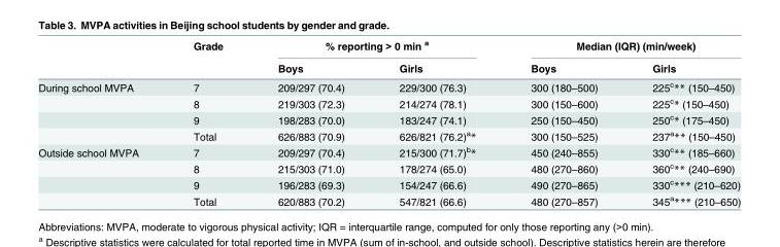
<table><thead><tr><td rowspan="2"></td><td rowspan="2">Grade</td><td colspan="2">% reporting &gt; 0 min <sup>a</sup></td><td colspan="2">Median (IQR) (min/week)</td></tr><tr><td>Boys</td><td>Girls</td><td>Boys</td><td>Girls</td></tr></thead><tbody><tr><td rowspan="4">During school MVPA</td><td>7</td><td>209/297 (70.4)</td><td>229/300 (76.3)</td><td>300 (180–500)</td><td>225<sup>c</sup>** (150–450)</td></tr><tr><td>8</td><td>219/303 (72.3)</td><td>214/274 (78.1)</td><td>300 (150–600)</td><td>225<sup>c</sup>* (150–450)</td></tr><tr><td>9</td><td>198/283 (70.0)</td><td>183/247 (74.1)</td><td>250 (150–450)</td><td>250<sup>c</sup>* (175–450)</td></tr><tr><td>Total</td><td>626/883 (70.9)</td><td>626/821 (76.2)<sup>a</sup>*</td><td>300 (150–525)</td><td>237<sup>a</sup>** (150–450)</td></tr><tr><td rowspan="4">Outside school MVPA</td><td>7</td><td>209/297 (70.4)</td><td>215/300 (71.7)<sup>b</sup>*</td><td>450 (240–855)</td><td>330<sup>c</sup>** (185–660)</td></tr><tr><td>8</td><td>215/303 (71.0)</td><td>178/274 (65.0)</td><td>480 (270–860)</td><td>360<sup>c</sup>** (240–690)</td></tr><tr><td>9</td><td>196/283 (69.3)</td><td>154/247 (66.6)</td><td>490 (270–865)</td><td>330<sup>c</sup>*** (210–620)</td></tr><tr><td>Total</td><td>620/883 (70.2)</td><td>547/821 (66.6)</td><td>480 (270–857)</td><td>345<sup>a</sup>*** (210–650)</td></tr></tbody></table>